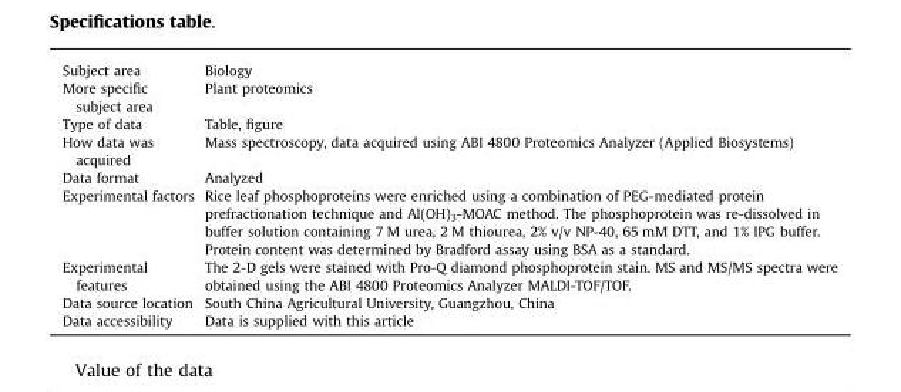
<table><tbody><tr><td>Subject area</td><td>Biology</td></tr><tr><td>More specific subject area</td><td>Plant proteomics</td></tr><tr><td>Type of data</td><td>Table, figure</td></tr><tr><td>How data was acquired</td><td>Mass spectroscopy, data acquired using ABI 4800 Proteomics Analyzer (Applied Biosystems)</td></tr><tr><td>Data format</td><td>Analyzed</td></tr><tr><td>Experimental factors</td><td>Rice leaf phosphoproteins were enriched using a combination of PEG-mediated protein prefractionation technique and Al(OH)<sub>3</sub>-MOAC method. The phosphoprotein was re-dissolved in buffer solution containing 7 M urea, 2 M thiourea, 2% v/v NP-40, 65 mM DTT, and 1% IPG buffer. Protein content was determined by Bradford assay using BSA as a standard.</td></tr><tr><td>Experimental features</td><td>The 2-D gels were stained with Pro-Q diamond phosphoprotein stain. MS and MS/MS spectra were obtained using the ABI 4800 Proteomics Analyzer MALDI-TOF/TOF.</td></tr><tr><td>Data source location</td><td>South China Agricultural University, Guangzhou, China</td></tr><tr><td>Data accessibility</td><td>Data is supplied with this article</td></tr></tbody></table>